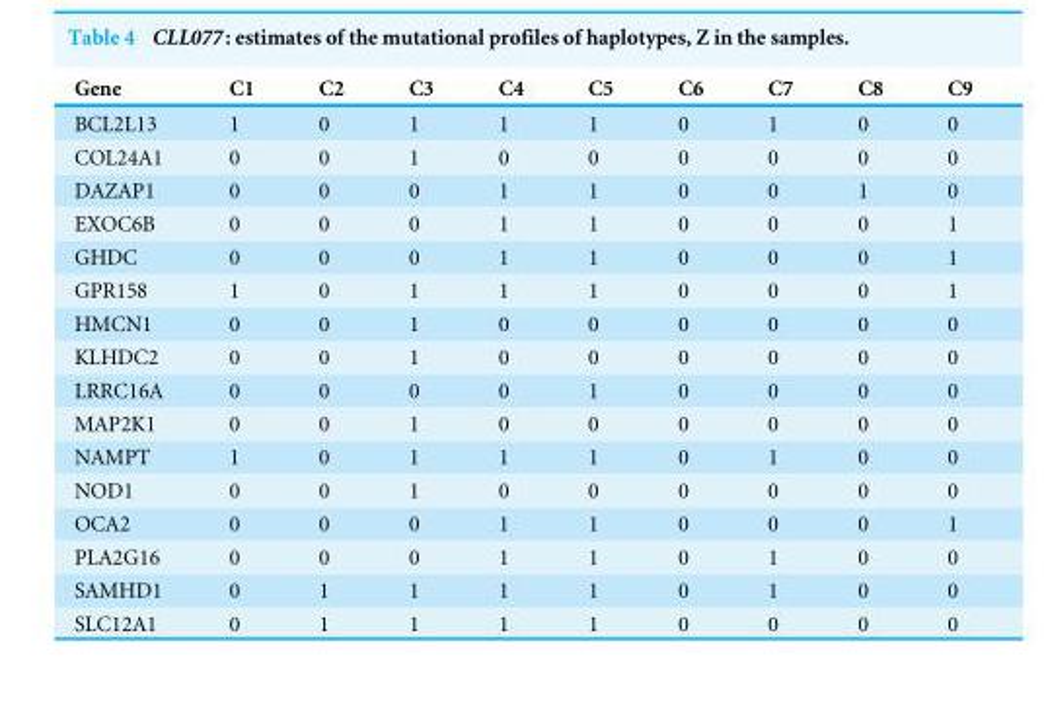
<table><thead><tr><td>Gene</td><td>C1</td><td>C2</td><td>C3</td><td>C4</td><td>C5</td><td>C6</td><td>C7</td><td>C8</td><td>C9</td></tr></thead><tbody><tr><td>BCL2L13</td><td>1</td><td>0</td><td>1</td><td>1</td><td>1</td><td>0</td><td>1</td><td>0</td><td>0</td></tr><tr><td>COL24A1</td><td>0</td><td>0</td><td>1</td><td>0</td><td>0</td><td>0</td><td>0</td><td>0</td><td>0</td></tr><tr><td>DAZAP1</td><td>0</td><td>0</td><td>0</td><td>1</td><td>1</td><td>0</td><td>0</td><td>1</td><td>0</td></tr><tr><td>EXOC6B</td><td>0</td><td>0</td><td>0</td><td>1</td><td>1</td><td>0</td><td>0</td><td>0</td><td>1</td></tr><tr><td>GHDC</td><td>0</td><td>0</td><td>0</td><td>1</td><td>1</td><td>0</td><td>0</td><td>0</td><td>1</td></tr><tr><td>GPR158</td><td>1</td><td>0</td><td>1</td><td>1</td><td>1</td><td>0</td><td>0</td><td>0</td><td>1</td></tr><tr><td>HMCN1</td><td>0</td><td>0</td><td>1</td><td>0</td><td>0</td><td>0</td><td>0</td><td>0</td><td>0</td></tr><tr><td>KLHDC2</td><td>0</td><td>0</td><td>1</td><td>0</td><td>0</td><td>0</td><td>0</td><td>0</td><td>0</td></tr><tr><td>LRRC16A</td><td>0</td><td>0</td><td>0</td><td>0</td><td>1</td><td>0</td><td>0</td><td>0</td><td>0</td></tr><tr><td>MAP2K1</td><td>0</td><td>0</td><td>1</td><td>0</td><td>0</td><td>0</td><td>0</td><td>0</td><td>0</td></tr><tr><td>NAMPT</td><td>1</td><td>0</td><td>1</td><td>1</td><td>1</td><td>0</td><td>1</td><td>0</td><td>0</td></tr><tr><td>NOD1</td><td>0</td><td>0</td><td>1</td><td>0</td><td>0</td><td>0</td><td>0</td><td>0</td><td>0</td></tr><tr><td>OCA2</td><td>0</td><td>0</td><td>0</td><td>1</td><td>1</td><td>0</td><td>0</td><td>0</td><td>1</td></tr><tr><td>PLA2G16</td><td>0</td><td>0</td><td>0</td><td>1</td><td>1</td><td>0</td><td>1</td><td>0</td><td>0</td></tr><tr><td>SAMHD1</td><td>0</td><td>1</td><td>1</td><td>1</td><td>1</td><td>0</td><td>1</td><td>0</td><td>0</td></tr><tr><td>SLC12A1</td><td>0</td><td>1</td><td>1</td><td>1</td><td>1</td><td>0</td><td>0</td><td>0</td><td>0</td></tr></tbody></table>